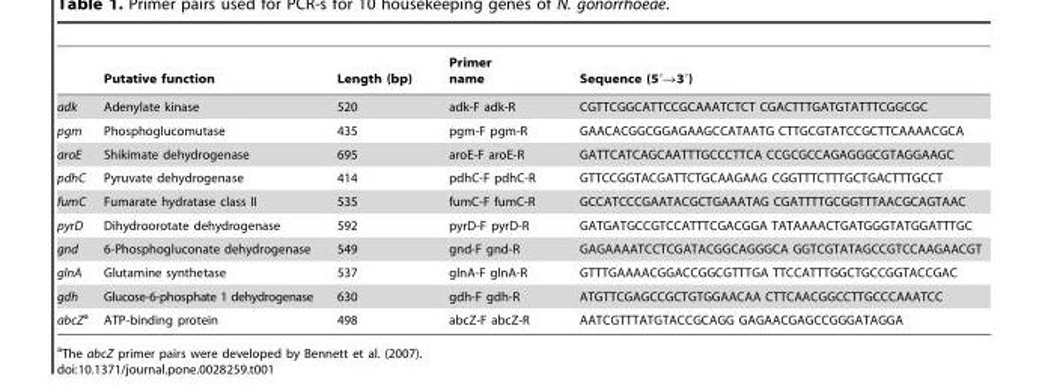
<table><thead><tr><td></td><td>Putative function</td><td>Length (bp)</td><td>Primer name</td><td>Sequence (5′→3′)</td></tr></thead><tbody><tr><td>adk</td><td>Adenylate kinase</td><td>520</td><td>adk-F adk-R</td><td>CGTTCGGCATTCCGCAAATCTCT CGACTTTGATGTATTTCGGCGC</td></tr><tr><td>pgm</td><td>Phosphoglucomutase</td><td>435</td><td>pgm-F pgm-R</td><td>GAACACGGCGGAGAAGCCATAATG CTTGCGTATCCGCTTCAAAACGCA</td></tr><tr><td>aroE</td><td>Shikimate dehydrogenase</td><td>695</td><td>aroE-F aroE-R</td><td>GATTCATCAGCAATTTGCCCTTCA CCGCGCCAGAGGGCGTAGGAAGC</td></tr><tr><td>pdhC</td><td>Pyruvate dehydrogenase</td><td>414</td><td>pdhC-F pdhC-R</td><td>GTTCCGGTACGATTCTGCAAGAAG CGGTTTCTTTGCTGACTTTGCCT</td></tr><tr><td>fumC</td><td>Fumarate hydratase class II</td><td>535</td><td>fumC-F fumC-R</td><td>GCCATCCCGAATACGCTGAAATAG CGATTTTGCGGTTTAACGCAGTAAC</td></tr><tr><td>pyrD</td><td>Dihydroorotate dehydrogenase</td><td>592</td><td>pyrD-F pyrD-R</td><td>GATGATGCCGTCCATTTCGACGGA TATAAAACTGATGGGTATGGATTTGC</td></tr><tr><td>gnd</td><td>6-Phosphogluconate dehydrogenase</td><td>549</td><td>gnd-F gnd-R</td><td>GAGAAAATCCTCGATACGGCAGGGCA GGTCGTATAGCCGTCCAAGAACGT</td></tr><tr><td>glnA</td><td>Glutamine synthetase</td><td>537</td><td>glnA-F glnA-R</td><td>GTTTGAAAACGGACCGGCGTTTGA TTCCATTTGGCTGCCGGTACCGAC</td></tr><tr><td>gdh</td><td>Glucose-6-phosphate 1 dehydrogenase</td><td>630</td><td>gdh-F gdh-R</td><td>ATGTTCGAGCCGCTGTGGAACAA CTTCAACGGCCTTGCCCAAATCC</td></tr><tr><td>abcZa</td><td>ATP-binding protein</td><td>498</td><td>abcZ-F abcZ-R</td><td>AATCGTTTATGTACCGCAGG GAGAACGAGCCGGGATAGGA</td></tr></tbody></table>